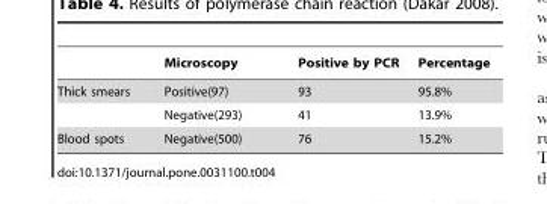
<table><thead><tr><td></td><td>Microscopy</td><td>Positive by PCR</td><td>Percentage</td></tr></thead><tbody><tr><td rowspan="2">Thick smears</td><td>Positive(97)</td><td>93</td><td>95.8%</td></tr><tr><td>Negative(293)</td><td>41</td><td>13.9%</td></tr><tr><td>Blood spots</td><td>Negative(500)</td><td>76</td><td>15.2%</td></tr></tbody></table>